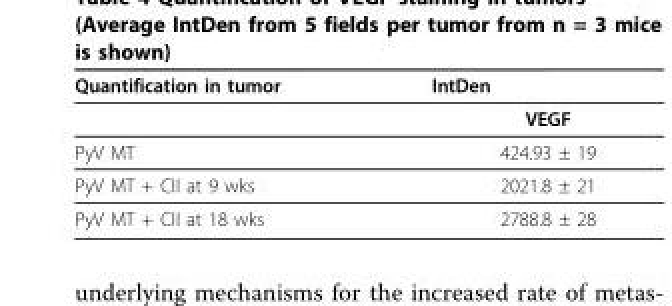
<table><thead><tr><td>Quantification in tumor</td><td>IntDen</td></tr></thead><tbody><tr><td></td><td>VEGF</td></tr><tr><td>PyV MT</td><td>424.93 ± 19</td></tr><tr><td>PyV MT + CII at 9 wks</td><td>2021.8 ± 21</td></tr><tr><td>PyV MT + CII at 18 wks</td><td>2788.8 ± 28</td></tr></tbody></table>